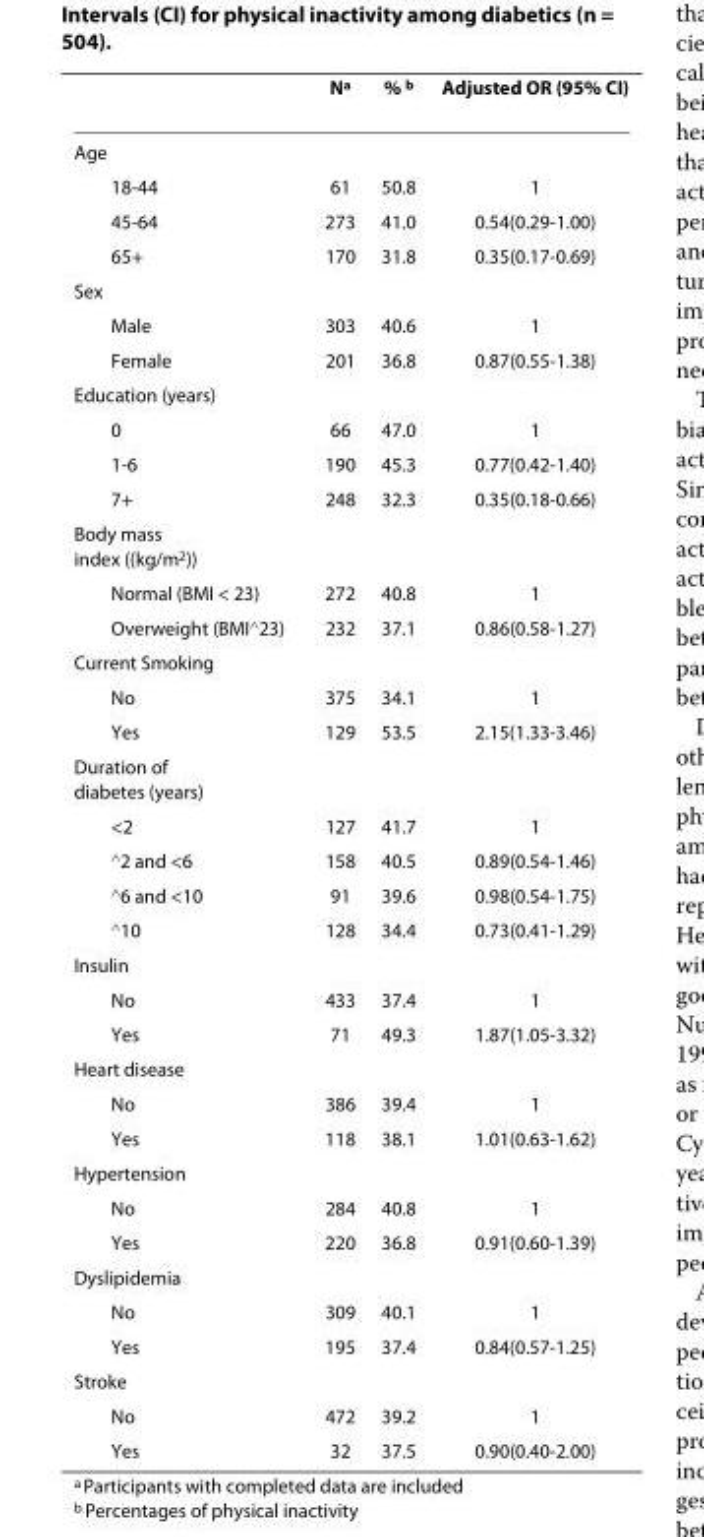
<table><thead><tr><td></td><td>N<sup>a</sup></td><td>% <sup>b</sup></td><td>Adjusted OR (95% CI)</td></tr></thead><tbody><tr><td colspan="4">Age</td></tr><tr><td>18-44</td><td>61</td><td>50.8</td><td>1</td></tr><tr><td>45-64</td><td>273</td><td>41.0</td><td>0.54(0.29-1.00)</td></tr><tr><td>65+</td><td>170</td><td>31.8</td><td>0.35(0.17-0.69)</td></tr><tr><td colspan="4">Sex</td></tr><tr><td>Male</td><td>303</td><td>40.6</td><td>1</td></tr><tr><td>Female</td><td>201</td><td>36.8</td><td>0.87(0.55-1.38)</td></tr><tr><td colspan="4">Education (years)</td></tr><tr><td>0</td><td>66</td><td>47.0</td><td>1</td></tr><tr><td>1-6</td><td>190</td><td>45.3</td><td>0.77(0.42-1.40)</td></tr><tr><td>7+</td><td>248</td><td>32.3</td><td>0.35(0.18-0.66)</td></tr><tr><td colspan="4">Body mass index ((kg/m<sup>2</sup>))</td></tr><tr><td>Normal (BMI &lt; 23)</td><td>272</td><td>40.8</td><td>1</td></tr><tr><td>Overweight (BMI≧23)</td><td>232</td><td>37.1</td><td>0.86(0.58-1.27)</td></tr><tr><td colspan="4">Current Smoking</td></tr><tr><td>No</td><td>375</td><td>34.1</td><td>1</td></tr><tr><td>Yes</td><td>129</td><td>53.5</td><td>2.15(1.33-3.46)</td></tr><tr><td colspan="4">Duration of diabetes (years)</td></tr><tr><td>&lt;2</td><td>127</td><td>41.7</td><td>1</td></tr><tr><td>≧2 and &lt;6</td><td>158</td><td>40.5</td><td>0.89(0.54-1.46)</td></tr><tr><td>≧6 and &lt;10</td><td>91</td><td>39.6</td><td>0.98(0.54-1.75)</td></tr><tr><td>≧10</td><td>128</td><td>34.4</td><td>0.73(0.41-1.29)</td></tr><tr><td colspan="4">Insulin</td></tr><tr><td>No</td><td>433</td><td>37.4</td><td>1</td></tr><tr><td>Yes</td><td>71</td><td>49.3</td><td>1.87(1.05-3.32)</td></tr><tr><td colspan="4">Heart disease</td></tr><tr><td>No</td><td>386</td><td>39.4</td><td>1</td></tr><tr><td>Yes</td><td>118</td><td>38.1</td><td>1.01(0.63-1.62)</td></tr><tr><td colspan="4">Hypertension</td></tr><tr><td>No</td><td>284</td><td>40.8</td><td>1</td></tr><tr><td>Yes</td><td>220</td><td>36.8</td><td>0.91(0.60-1.39)</td></tr><tr><td colspan="4">Dyslipidemia</td></tr><tr><td>No</td><td>309</td><td>40.1</td><td>1</td></tr><tr><td>Yes</td><td>195</td><td>37.4</td><td>0.84(0.57-1.25)</td></tr><tr><td colspan="4">Stroke</td></tr><tr><td>No</td><td>472</td><td>39.2</td><td>1</td></tr><tr><td>Yes</td><td>32</td><td>37.5</td><td>0.90(0.40-2.00)</td></tr></tbody></table>